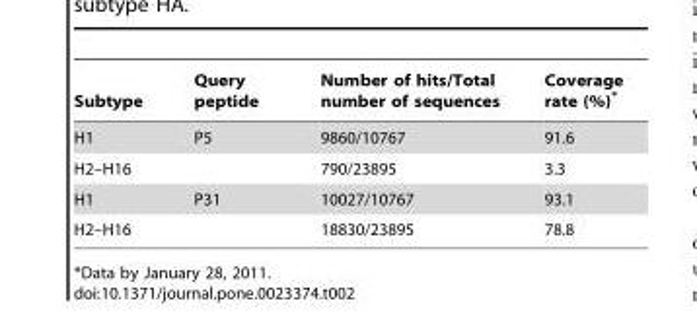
<table><thead><tr><td>Subtype</td><td>Query peptide</td><td>Number of hits/Total number of sequences</td><td>Coverage rate (%)*</td></tr></thead><tbody><tr><td>H1</td><td>P5</td><td>9860/10767</td><td>91.6</td></tr><tr><td>H2–H16</td><td></td><td>790/23895</td><td>3.3</td></tr><tr><td>H1</td><td>P31</td><td>10027/10767</td><td>93.1</td></tr><tr><td>H2–H16</td><td></td><td>18830/23895</td><td>78.8</td></tr></tbody></table>